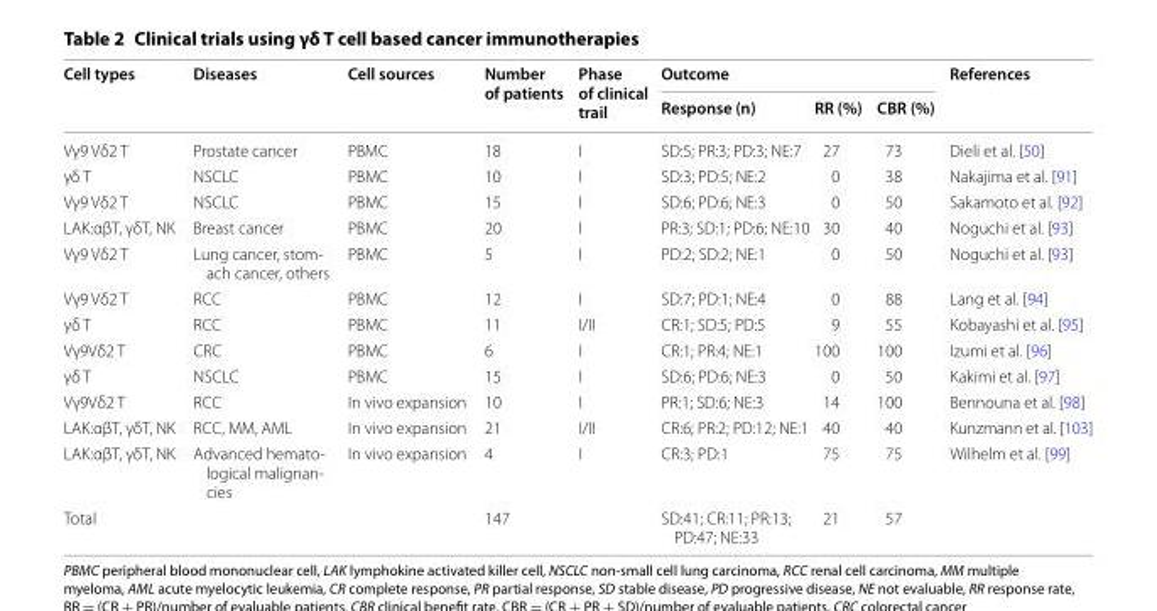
<table><thead><tr><td rowspan="2">Cell types</td><td rowspan="2">Diseases</td><td rowspan="2">Cell sources</td><td rowspan="2">Number of patients</td><td rowspan="2">Phase of clinical trail</td><td colspan="3">Outcome</td><td rowspan="2">References</td></tr><tr><td>Response (n)</td><td>RR (%)</td><td>CBR (%)</td></tr></thead><tbody><tr><td>Vγ9 Vδ2 T</td><td>Prostate cancer</td><td>PBMC</td><td>18</td><td>I</td><td>SD:5; PR:3; PD:3; NE:7</td><td>27</td><td>73</td><td>Dieli et al. [50]</td></tr><tr><td>γδ T</td><td>NSCLC</td><td>PBMC</td><td>10</td><td>I</td><td>SD:3; PD:5; NE:2</td><td>0</td><td>38</td><td>Nakajima et al. [91]</td></tr><tr><td>Vγ9 Vδ2 T</td><td>NSCLC</td><td>PBMC</td><td>15</td><td>I</td><td>SD:6; PD:6; NE:3</td><td>0</td><td>50</td><td>Sakamoto et al. [92]</td></tr><tr><td>LAK:αβT, γδT, NK</td><td>Breast cancer</td><td>PBMC</td><td>20</td><td>I</td><td>PR:3; SD:1; PD:6; NE:10</td><td>30</td><td>40</td><td>Noguchi et al. [93]</td></tr><tr><td>Vγ9 Vδ2 T</td><td>Lung cancer, stom- ach cancer, others</td><td>PBMC</td><td>5</td><td>I</td><td>PD:2; SD:2; NE:1</td><td>0</td><td>50</td><td>Noguchi et al. [93]</td></tr><tr><td>Vγ9 Vδ2 T</td><td>RCC</td><td>PBMC</td><td>12</td><td>I</td><td>SD:7; PD:1; NE:4</td><td>0</td><td>88</td><td>Lang et al. [94]</td></tr><tr><td>γδ T</td><td>RCC</td><td>PBMC</td><td>11</td><td>I/II</td><td>CR:1; SD:5; PD:5</td><td>9</td><td>55</td><td>Kobayashi et al. [95]</td></tr><tr><td>Vγ9Vδ2 T</td><td>CRC</td><td>PBMC</td><td>6</td><td>I</td><td>CR:1; PR:4; NE:1</td><td>100</td><td>100</td><td>Izumi et al. [96]</td></tr><tr><td>γδ T</td><td>NSCLC</td><td>PBMC</td><td>15</td><td>I</td><td>SD:6; PD:6; NE:3</td><td>0</td><td>50</td><td>Kakimi et al. [97]</td></tr><tr><td>Vγ9Vδ2 T</td><td>RCC</td><td>In vivo expansion</td><td>10</td><td>I</td><td>PR:1; SD:6; NE:3</td><td>14</td><td>100</td><td>Bennouna et al. [98]</td></tr><tr><td>LAK:αβT, γδT, NK</td><td>RCC, MM, AML</td><td>In vivo expansion</td><td>21</td><td>I/II</td><td>CR:6; PR:2; PD:12; NE:1</td><td>40</td><td>40</td><td>Kunzmann et al. [103]</td></tr><tr><td>LAK:αβT, γδT, NK</td><td>Advanced hemato- logical malignan- cies</td><td>In vivo expansion</td><td>4</td><td>I</td><td>CR:3; PD:1</td><td>75</td><td>75</td><td>Wilhelm et al. [99]</td></tr><tr><td>Total</td><td></td><td></td><td>147</td><td></td><td>SD:41; CR:11; PR:13; PD:47; NE:33</td><td>21</td><td>57</td><td></td></tr></tbody></table>